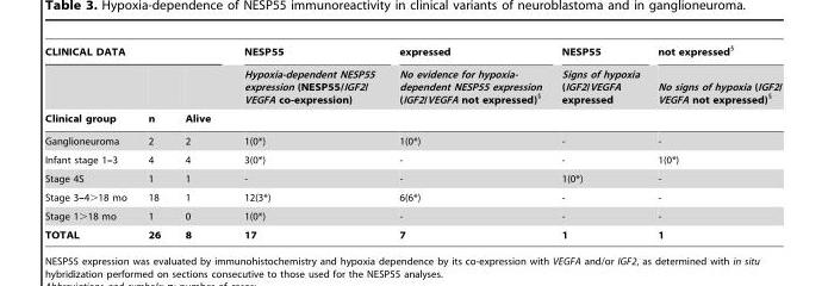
<table><thead><tr><td rowspan="3">CLINICAL DATA Clinical group</td><td rowspan="3">n</td><td rowspan="3">Alive</td><td rowspan="3">NESP55 Hypoxia-dependent NESP55 expression (NESP55/IGF2/ VEGFA co-expression)</td><td rowspan="3">expressed No evidence for hypoxia- dependent NESP55 expression (IGF2/VEGFA not expressed)§</td><td rowspan="3">NESP55 Signs of hypoxia (IGF2/VEGFA expressed</td><td rowspan="3">not expressed§ No signs of hypoxia (IGF2/ VEGFA not expressed)§</td></tr><tr></tr><tr></tr></thead><tbody><tr><td>Ganglioneuroma</td><td>2</td><td>2</td><td>1(0*)</td><td>1(0*)</td><td>-</td><td>-</td></tr><tr><td>Infant stage 1–3</td><td>4</td><td>4</td><td>3(0*)</td><td>-</td><td>-</td><td>1(0*)</td></tr><tr><td>Stage 4S</td><td>1</td><td>1</td><td>-</td><td>-</td><td>1(0*)</td><td>-</td></tr><tr><td>Stage 3–4&gt;18 mo</td><td>18</td><td>1</td><td>12(3*)</td><td>6(6*)</td><td>-</td><td>-</td></tr><tr><td>Stage 1&gt;18 mo</td><td>1</td><td>0</td><td>1(0*)</td><td>-</td><td>-</td><td>-</td></tr><tr><td>TOTAL</td><td>26</td><td>8</td><td>17</td><td>7</td><td>1</td><td>1</td></tr></tbody></table>